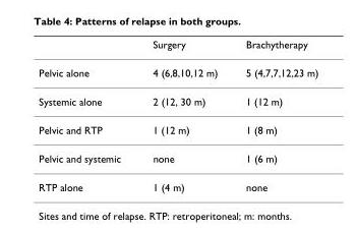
<table><thead><tr><td></td><td>Surgery</td><td>Brachytherapy</td></tr></thead><tbody><tr><td>Pelvic alone</td><td>4 (6,8,10,12 m)</td><td>5 (4,7,7,12,23 m)</td></tr><tr><td>Systemic alone</td><td>2 (12, 30 m)</td><td>1 (12 m)</td></tr><tr><td>Pelvic and RTP</td><td>1 (12 m)</td><td>1 (8 m)</td></tr><tr><td>Pelvic and systemic</td><td>none</td><td>1 (6 m)</td></tr><tr><td>RTP alone</td><td>1 (4 m)</td><td>none</td></tr></tbody></table>